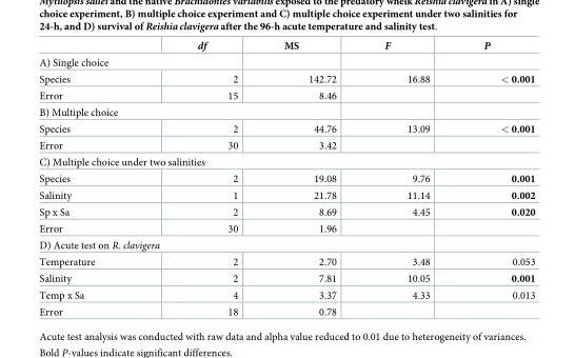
<table><thead><tr><td></td><td>df</td><td>MS</td><td>F</td><td>P</td></tr></thead><tbody><tr><td colspan="5">A) Single choice</td></tr><tr><td>Species</td><td>2</td><td>142.72</td><td>16.88</td><td>&lt; 0.001</td></tr><tr><td>Error</td><td>15</td><td>8.46</td><td></td><td></td></tr><tr><td colspan="5">B) Multiple choice</td></tr><tr><td>Species</td><td>2</td><td>44.76</td><td>13.09</td><td>&lt; 0.001</td></tr><tr><td>Error</td><td>30</td><td>3.42</td><td></td><td></td></tr><tr><td colspan="5">C) Multiple choice under two salinities</td></tr><tr><td>Species</td><td>2</td><td>19.08</td><td>9.76</td><td>0.001</td></tr><tr><td>Salinity</td><td>1</td><td>21.78</td><td>11.14</td><td>0.002</td></tr><tr><td>Sp x Sa</td><td>2</td><td>8.69</td><td>4.45</td><td>0.020</td></tr><tr><td>Error</td><td>30</td><td>1.96</td><td></td><td></td></tr><tr><td colspan="5">D) Acute test on R. clavigera</td></tr><tr><td>Temperature</td><td>2</td><td>2.70</td><td>3.48</td><td>0.053</td></tr><tr><td>Salinity</td><td>2</td><td>7.81</td><td>10.05</td><td>0.001</td></tr><tr><td>Temp x Sa</td><td>4</td><td>3.37</td><td>4.33</td><td>0.013</td></tr><tr><td>Error</td><td>18</td><td>0.78</td><td></td><td></td></tr></tbody></table>